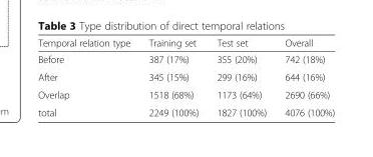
<table><thead><tr><td>Temporal relation type</td><td>Training set</td><td>Test set</td><td>Overall</td></tr></thead><tbody><tr><td>Before</td><td>387 (17%)</td><td>355 (20%)</td><td>742 (18%)</td></tr><tr><td>After</td><td>345 (15%)</td><td>299 (16%)</td><td>644 (16%)</td></tr><tr><td>Overlap</td><td>1518 (68%)</td><td>1173 (64%)</td><td>2690 (66%)</td></tr><tr><td>total</td><td>2249 (100%)</td><td>1827 (100%)</td><td>4076 (100%)</td></tr></tbody></table>